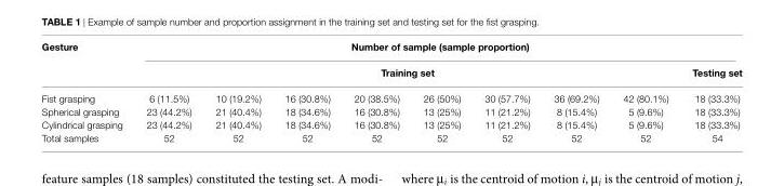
<table><thead><tr><td rowspan="3">Gesture Fist grasping</td><td colspan="9">Number of sample (sample proportion)</td></tr><tr><td colspan="8">Training set</td><td rowspan="2">Testing set 18 (33.3%)</td></tr><tr><td>6 (11.5%)</td><td>10 (19.2%)</td><td>16 (30.8%)</td><td>20 (38.5%)</td><td>26 (50%)</td><td>30 (57.7%)</td><td>36 (69.2%)</td><td>42 (80.1%)</td></tr></thead><tbody><tr><td>Spherical grasping</td><td>23 (44.2%)</td><td>21 (40.4%)</td><td>18 (34.6%)</td><td>16 (30.8%)</td><td>13 (25%)</td><td>11 (21.2%)</td><td>8 (15.4%)</td><td>5 (9.6%)</td><td>18 (33.3%)</td></tr><tr><td>Cylindrical grasping</td><td>23 (44.2%)</td><td>21 (40.4%)</td><td>18 (34.6%)</td><td>16 (30.8%)</td><td>13 (25%)</td><td>11 (21.2%)</td><td>8 (15.4%)</td><td>5 (9.6%)</td><td>18 (33.3%)</td></tr><tr><td>Total samples</td><td>52</td><td>52</td><td>52</td><td>52</td><td>52</td><td>52</td><td>52</td><td>52</td><td>54</td></tr></tbody></table>